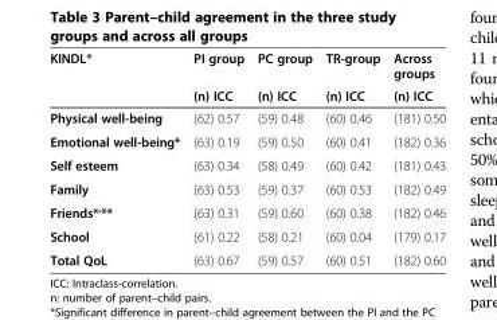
<table><thead><tr><td rowspan="2">KINDL®</td><td rowspan="2">PI group (n) ICC</td><td rowspan="2">PC group (n) ICC</td><td rowspan="2">TR-group (n) ICC</td><td rowspan="2">Across groups (n) ICC</td></tr><tr></tr></thead><tbody><tr><td>Physical well-being</td><td>(62) 0.57</td><td>(59) 0.48</td><td>(60) 0.46</td><td>(181) 0.50</td></tr><tr><td>Emotional well-being*</td><td>(63) 0.19</td><td>(59) 0.50</td><td>(60) 0.41</td><td>(182) 0.36</td></tr><tr><td>Self esteem</td><td>(63) 0.34</td><td>(58) 0.49</td><td>(60) 0.42</td><td>(181) 0.43</td></tr><tr><td>Family</td><td>(63) 0.53</td><td>(59) 0.37</td><td>(60) 0.53</td><td>(182) 0.49</td></tr><tr><td>Friends*<sup>,</sup>**</td><td>(63) 0.31</td><td>(59) 0.60</td><td>(60) 0.38</td><td>(182) 0.46</td></tr><tr><td>School</td><td>(61) 0.22</td><td>(58) 0.21</td><td>(60) 0.04</td><td>(179) 0.17</td></tr><tr><td>Total QoL</td><td>(63) 0.67</td><td>(59) 0.57</td><td>(60) 0.51</td><td>(182) 0.60</td></tr></tbody></table>